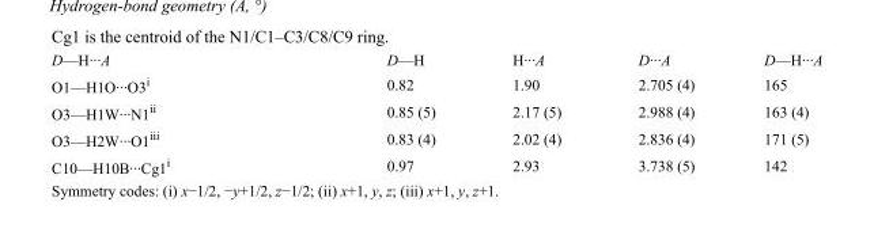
<table><tbody><tr><td>D—H···A</td><td>D—H</td><td>H···A</td><td>D···A</td><td>D—H···A</td></tr><tr><td>O1—H1O···O3<sup>i</sup></td><td>0.82</td><td>1.90</td><td>2.705 (4)</td><td>165</td></tr><tr><td>O3—H1W···N1<sup>ii</sup></td><td>0.85 (5)</td><td>2.17 (5)</td><td>2.988 (4)</td><td>163 (4)</td></tr><tr><td>O3—H2W···O1<sup>iii</sup></td><td>0.83 (4)</td><td>2.02 (4)</td><td>2.836 (4)</td><td>171 (5)</td></tr><tr><td>C10—H10B···Cg1<sup>i</sup></td><td>0.97</td><td>2.93</td><td>3.738 (5)</td><td>142</td></tr></tbody></table>